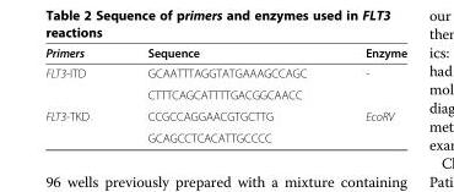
<table><thead><tr><td>Primers</td><td>Sequence</td><td>Enzyme</td></tr></thead><tbody><tr><td rowspan="2">FLT3-ITD</td><td>GCAATTTAGGTATGAAAGCCAGC</td><td>-</td></tr><tr><td>CTTTCAGCATTTTGACGGCAACC</td><td></td></tr><tr><td rowspan="2">FLT3-TKD</td><td>CCGCCAGGAACGTGCTTG</td><td>EcoRV</td></tr><tr><td>GCAGCCTCACATTGCCCC</td><td></td></tr></tbody></table>